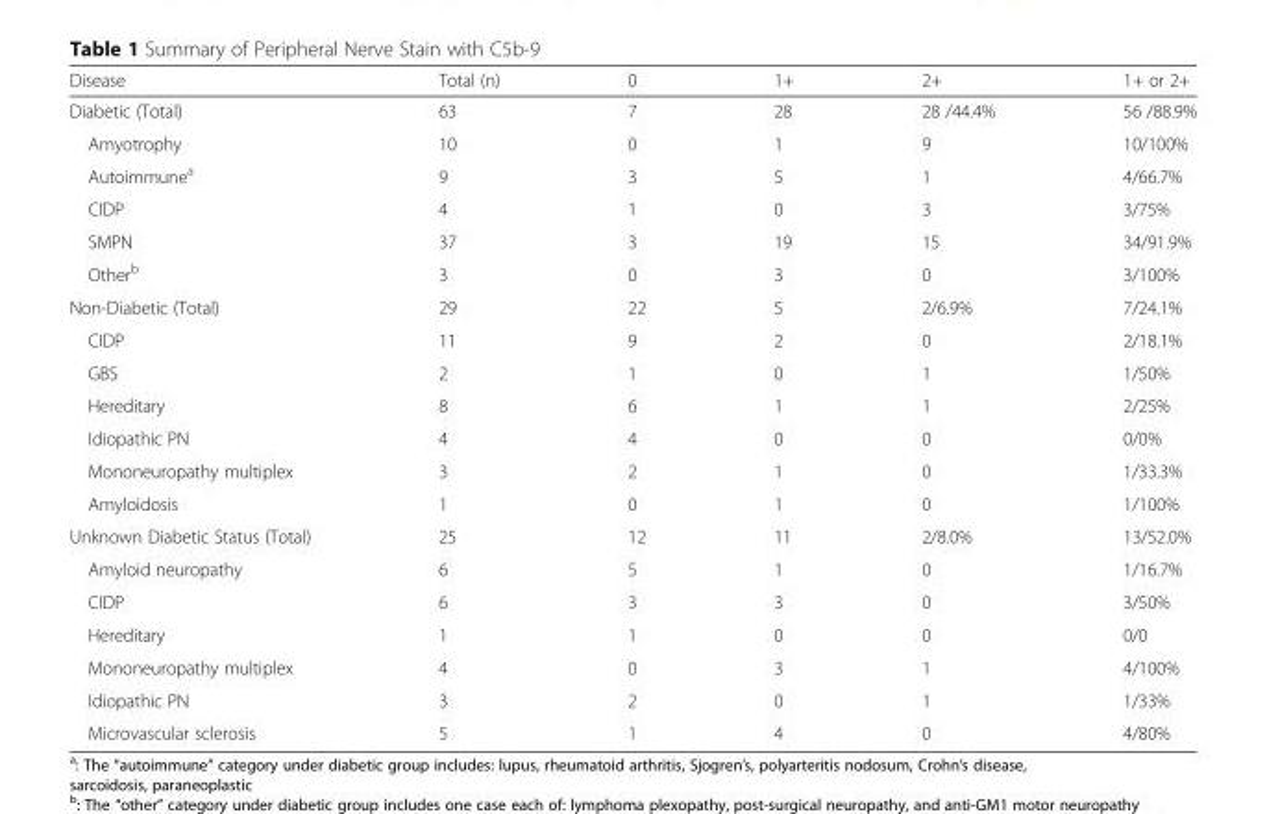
<table><thead><tr><td>Disease</td><td>Total (n)</td><td>0</td><td>1+</td><td>2+</td><td>1+ or 2+</td></tr></thead><tbody><tr><td>Diabetic (Total)</td><td>63</td><td>7</td><td>28</td><td>28 /44.4%</td><td>56 /88.9%</td></tr><tr><td>Amyotrophy</td><td>10</td><td>0</td><td>1</td><td>9</td><td>10/100%</td></tr><tr><td>Autoimmune<sup>a</sup></td><td>9</td><td>3</td><td>5</td><td>1</td><td>4/66.7%</td></tr><tr><td>CIDP</td><td>4</td><td>1</td><td>0</td><td>3</td><td>3/75%</td></tr><tr><td>SMPN</td><td>37</td><td>3</td><td>19</td><td>15</td><td>34/91.9%</td></tr><tr><td>Other<sup>b</sup></td><td>3</td><td>0</td><td>3</td><td>0</td><td>3/100%</td></tr><tr><td>Non-Diabetic (Total)</td><td>29</td><td>22</td><td>5</td><td>2/6.9%</td><td>7/24.1%</td></tr><tr><td>CIDP</td><td>11</td><td>9</td><td>2</td><td>0</td><td>2/18.1%</td></tr><tr><td>GBS</td><td>2</td><td>1</td><td>0</td><td>1</td><td>1/50%</td></tr><tr><td>Hereditary</td><td>8</td><td>6</td><td>1</td><td>1</td><td>2/25%</td></tr><tr><td>Idiopathic PN</td><td>4</td><td>4</td><td>0</td><td>0</td><td>0/0%</td></tr><tr><td>Mononeuropathy multiplex</td><td>3</td><td>2</td><td>1</td><td>0</td><td>1/33.3%</td></tr><tr><td>Amyloidosis</td><td>1</td><td>0</td><td>1</td><td>0</td><td>1/100%</td></tr><tr><td>Unknown Diabetic Status (Total)</td><td>25</td><td>12</td><td>11</td><td>2/8.0%</td><td>13/52.0%</td></tr><tr><td>Amyloid neuropathy</td><td>6</td><td>5</td><td>1</td><td>0</td><td>1/16.7%</td></tr><tr><td>CIDP</td><td>6</td><td>3</td><td>3</td><td>0</td><td>3/50%</td></tr><tr><td>Hereditary</td><td>1</td><td>1</td><td>0</td><td>0</td><td>0/0</td></tr><tr><td>Mononeuropathy multiplex</td><td>4</td><td>0</td><td>3</td><td>1</td><td>4/100%</td></tr><tr><td>Idiopathic PN</td><td>3</td><td>2</td><td>0</td><td>1</td><td>1/33%</td></tr><tr><td>Microvascular sclerosis</td><td>5</td><td>1</td><td>4</td><td>0</td><td>4/80%</td></tr></tbody></table>